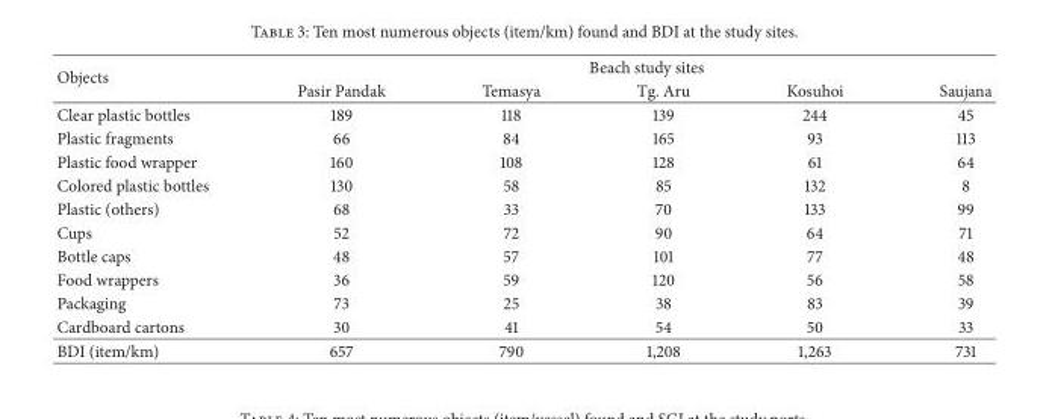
<table><thead><tr><td rowspan="2">Objects</td><td colspan="5">Beach study sites</td></tr><tr><td>Pasir Pandak</td><td>Temasya</td><td>Tg. Aru</td><td>Kosuhoi</td><td>Saujana</td></tr></thead><tbody><tr><td>Clear plastic bottles</td><td>189</td><td>118</td><td>139</td><td>244</td><td>45</td></tr><tr><td>Plastic fragments</td><td>66</td><td>84</td><td>165</td><td>93</td><td>113</td></tr><tr><td>Plastic food wrapper</td><td>160</td><td>108</td><td>128</td><td>61</td><td>64</td></tr><tr><td>Colored plastic bottles</td><td>130</td><td>58</td><td>85</td><td>132</td><td>8</td></tr><tr><td>Plastic (others)</td><td>68</td><td>33</td><td>70</td><td>133</td><td>99</td></tr><tr><td>Cups</td><td>52</td><td>72</td><td>90</td><td>64</td><td>71</td></tr><tr><td>Bottle caps</td><td>48</td><td>57</td><td>101</td><td>77</td><td>48</td></tr><tr><td>Food wrappers</td><td>36</td><td>59</td><td>120</td><td>56</td><td>58</td></tr><tr><td>Packaging</td><td>73</td><td>25</td><td>38</td><td>83</td><td>39</td></tr><tr><td>Cardboard cartons</td><td>30</td><td>41</td><td>54</td><td>50</td><td>33</td></tr><tr><td>BDI (item/km)</td><td>657</td><td>790</td><td>1,208</td><td>1,263</td><td>731</td></tr></tbody></table>